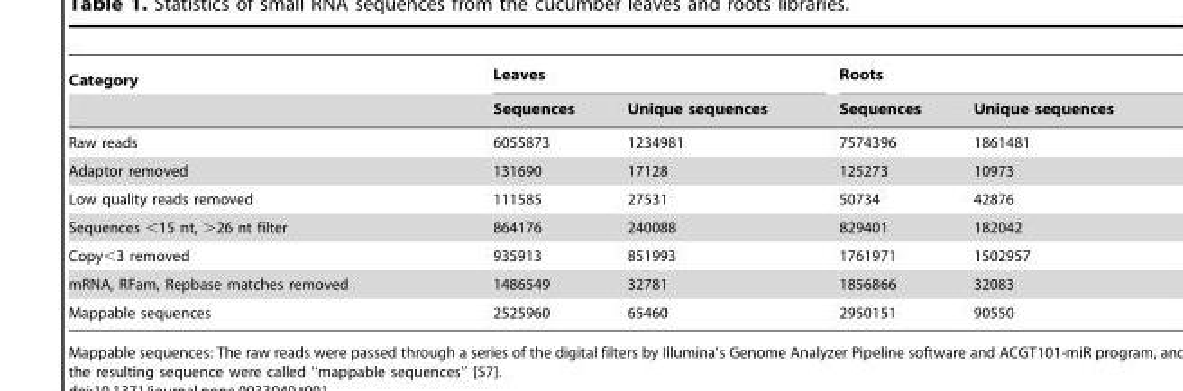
<table><thead><tr><td rowspan="2">Category</td><td colspan="2">Leaves</td><td colspan="2">Roots</td></tr><tr><td>Sequences</td><td>Unique sequences</td><td>Sequences</td><td>Unique sequences</td></tr></thead><tbody><tr><td>Raw reads</td><td>6055873</td><td>1234981</td><td>7574396</td><td>1861481</td></tr><tr><td>Adaptor removed</td><td>131690</td><td>17128</td><td>125273</td><td>10973</td></tr><tr><td>Low quality reads removed</td><td>111585</td><td>27531</td><td>50734</td><td>42876</td></tr><tr><td>Sequences &lt;15 nt, &gt;26 nt filter</td><td>864176</td><td>240088</td><td>829401</td><td>182042</td></tr><tr><td>Copy&lt;3 removed</td><td>935913</td><td>851993</td><td>1761971</td><td>1502957</td></tr><tr><td>mRNA, RFam, Repbase matches removed</td><td>1486549</td><td>32781</td><td>1856866</td><td>32083</td></tr><tr><td>Mappable sequences</td><td>2525960</td><td>65460</td><td>2950151</td><td>90550</td></tr></tbody></table>